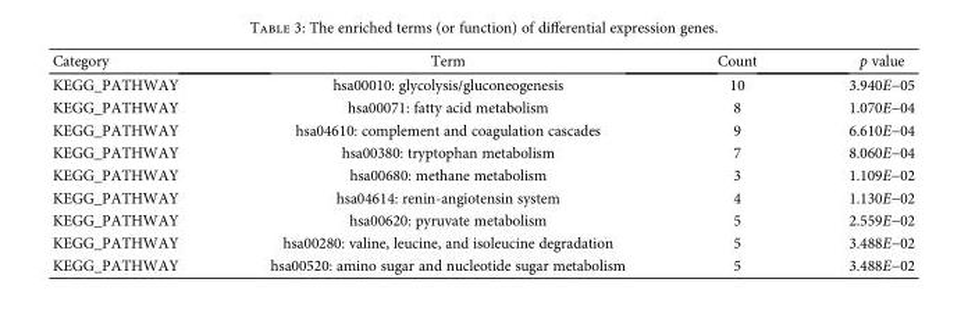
<table><thead><tr><td>Category</td><td>Term</td><td>Count</td><td>p value</td></tr></thead><tbody><tr><td>KEGG_PATHWAY</td><td>hsa00010: glycolysis/gluconeogenesis</td><td>10</td><td>3.940E−05</td></tr><tr><td>KEGG_PATHWAY</td><td>hsa00071: fatty acid metabolism</td><td>8</td><td>1.070E−04</td></tr><tr><td>KEGG_PATHWAY</td><td>hsa04610: complement and coagulation cascades</td><td>9</td><td>6.610E−04</td></tr><tr><td>KEGG_PATHWAY</td><td>hsa00380: tryptophan metabolism</td><td>7</td><td>8.060E−04</td></tr><tr><td>KEGG_PATHWAY</td><td>hsa00680: methane metabolism</td><td>3</td><td>1.109E−02</td></tr><tr><td>KEGG_PATHWAY</td><td>hsa04614: renin-angiotensin system</td><td>4</td><td>1.130E−02</td></tr><tr><td>KEGG_PATHWAY</td><td>hsa00620: pyruvate metabolism</td><td>5</td><td>2.559E−02</td></tr><tr><td>KEGG_PATHWAY</td><td>hsa00280: valine, leucine, and isoleucine degradation</td><td>5</td><td>3.488E−02</td></tr><tr><td>KEGG_PATHWAY</td><td>hsa00520: amino sugar and nucleotide sugar metabolism</td><td>5</td><td>3.488E−02</td></tr></tbody></table>